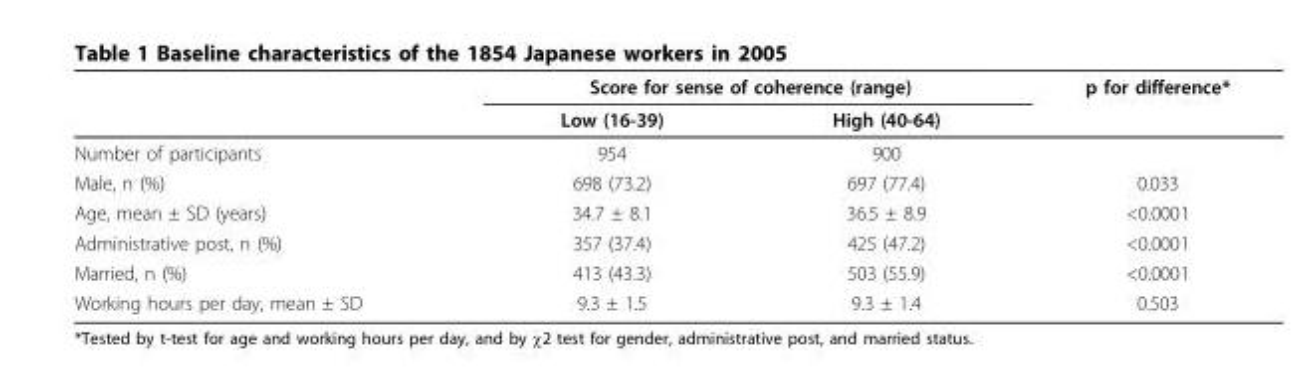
<table><thead><tr><td rowspan="2"></td><td colspan="2">Score for sense of coherence (range)</td><td rowspan="2">p for difference*</td></tr><tr><td>Low (16-39)</td><td>High (40-64)</td></tr></thead><tbody><tr><td>Number of participants</td><td>954</td><td>900</td><td></td></tr><tr><td>Male, n (%)</td><td>698 (73.2)</td><td>697 (77.4)</td><td>0.033</td></tr><tr><td>Age, mean ± SD (years)</td><td>34.7 ± 8.1</td><td>36.5 ± 8.9</td><td>&lt;0.0001</td></tr><tr><td>Administrative post, n (%)</td><td>357 (37.4)</td><td>425 (47.2)</td><td>&lt;0.0001</td></tr><tr><td>Married, n (%)</td><td>413 (43.3)</td><td>503 (55.9)</td><td>&lt;0.0001</td></tr><tr><td>Working hours per day, mean ± SD</td><td>9.3 ± 1.5</td><td>9.3 ± 1.4</td><td>0.503</td></tr></tbody></table>